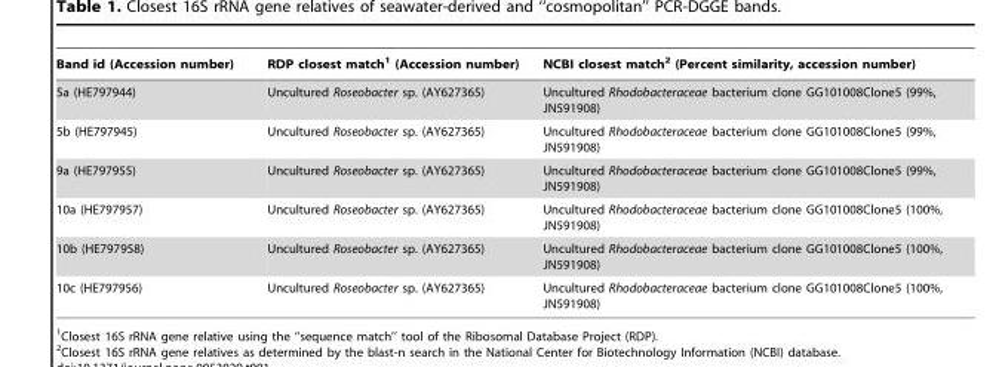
<table><thead><tr><td>Band id (Accession number)</td><td>RDP closest match<sup>1</sup> (Accession number)</td><td>NCBI closest match<sup>2</sup> (Percent similarity, accession number)</td></tr></thead><tbody><tr><td>5a (HE797944)</td><td>Uncultured Roseobacter sp. (AY627365)</td><td>Uncultured Rhodobacteraceae bacterium clone GG101008Clone5 (99%, JN591908)</td></tr><tr><td>5b (HE797945)</td><td>Uncultured Roseobacter sp. (AY627365)</td><td>Uncultured Rhodobacteraceae bacterium clone GG101008Clone5 (99%, JN591908)</td></tr><tr><td>9a (HE797955)</td><td>Uncultured Roseobacter sp. (AY627365)</td><td>Uncultured Rhodobacteraceae bacterium clone GG101008Clone5 (99%, JN591908)</td></tr><tr><td>10a (HE797957)</td><td>Uncultured Roseobacter sp. (AY627365)</td><td>Uncultured Rhodobacteraceae bacterium clone GG101008Clone5 (100%, JN591908)</td></tr><tr><td>10b (HE797958)</td><td>Uncultured Roseobacter sp. (AY627365)</td><td>Uncultured Rhodobacteraceae bacterium clone GG101008Clone5 (100%, JN591908)</td></tr><tr><td>10c (HE797956)</td><td>Uncultured Roseobacter sp. (AY627365)</td><td>Uncultured Rhodobacteraceae bacterium clone GG101008Clone5 (100%, JN591908)</td></tr></tbody></table>